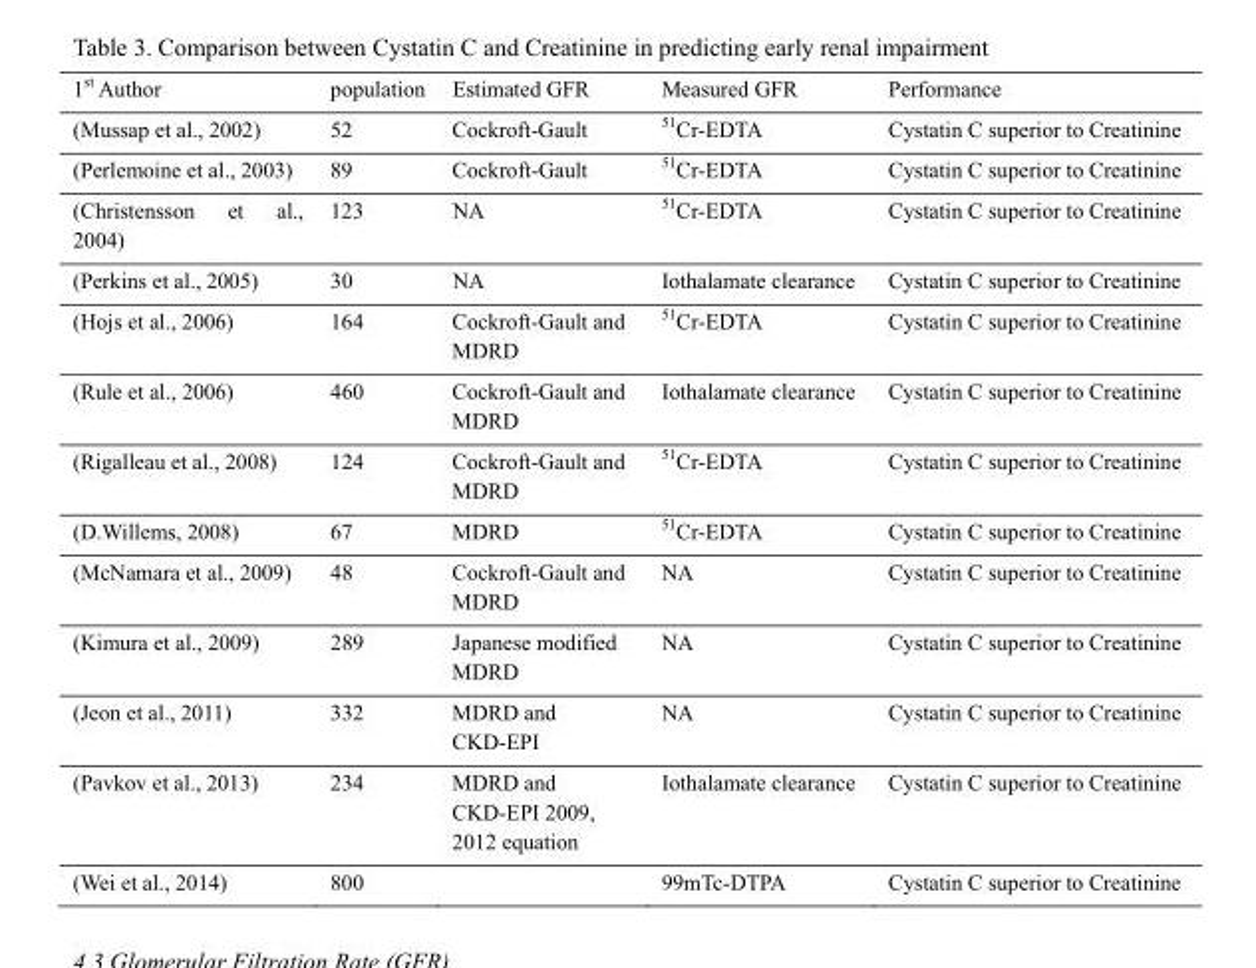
<table><thead><tr><td>1<sup>st</sup> Author</td><td>population</td><td>Estimated GFR</td><td>Measured GFR</td><td>Performance</td></tr></thead><tbody><tr><td>(Mussap et al., 2002)</td><td>52</td><td>Cockroft-Gault</td><td><sup>51</sup>Cr-EDTA</td><td>Cystatin C superior to Creatinine</td></tr><tr><td>(Perlemoine et al., 2003)</td><td>89</td><td>Cockroft-Gault</td><td><sup>51</sup>Cr-EDTA</td><td>Cystatin C superior to Creatinine</td></tr><tr><td>(Christensson et al., 2004)</td><td>123</td><td>NA</td><td><sup>51</sup>Cr-EDTA</td><td>Cystatin C superior to Creatinine</td></tr><tr><td>(Perkins et al., 2005)</td><td>30</td><td>NA</td><td>Iothalamate clearance</td><td>Cystatin C superior to Creatinine</td></tr><tr><td>(Hojs et al., 2006)</td><td>164</td><td>Cockroft-Gault and MDRD</td><td><sup>51</sup>Cr-EDTA</td><td>Cystatin C superior to Creatinine</td></tr><tr><td>(Rule et al., 2006)</td><td>460</td><td>Cockroft-Gault and MDRD</td><td>Iothalamate clearance</td><td>Cystatin C superior to Creatinine</td></tr><tr><td>(Rigalleau et al., 2008)</td><td>124</td><td>Cockroft-Gault and MDRD</td><td><sup>51</sup>Cr-EDTA</td><td>Cystatin C superior to Creatinine</td></tr><tr><td>(D.Willems, 2008)</td><td>67</td><td>MDRD</td><td><sup>51</sup>Cr-EDTA</td><td>Cystatin C superior to Creatinine</td></tr><tr><td>(McNamara et al., 2009)</td><td>48</td><td>Cockroft-Gault and MDRD</td><td>NA</td><td>Cystatin C superior to Creatinine</td></tr><tr><td>(Kimura et al., 2009)</td><td>289</td><td>Japanese modified MDRD</td><td>NA</td><td>Cystatin C superior to Creatinine</td></tr><tr><td>(Jeon et al., 2011)</td><td>332</td><td>MDRD and CKD-EPI</td><td>NA</td><td>Cystatin C superior to Creatinine</td></tr><tr><td>(Pavkov et al., 2013)</td><td>234</td><td>MDRD and CKD-EPI 2009, 2012 equation</td><td>Iothalamate clearance</td><td>Cystatin C superior to Creatinine</td></tr><tr><td>(Wei et al., 2014)</td><td>800</td><td></td><td>99mTc-DTPA</td><td>Cystatin C superior to Creatinine</td></tr></tbody></table>